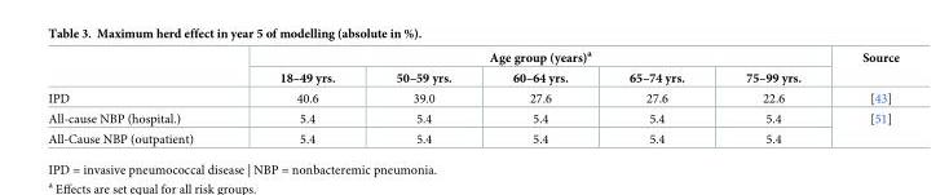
<table><thead><tr><td rowspan="2"></td><td colspan="5">Age group (years)<sup>a</sup></td><td rowspan="2">Source</td></tr><tr><td>18–49 yrs.</td><td>50–59 yrs.</td><td>60–64 yrs.</td><td>65–74 yrs.</td><td>75–99 yrs.</td></tr></thead><tbody><tr><td>IPD</td><td>40.6</td><td>39.0</td><td>27.6</td><td>27.6</td><td>22.6</td><td>[43]</td></tr><tr><td>All-cause NBP (hospital.)</td><td>5.4</td><td>5.4</td><td>5.4</td><td>5.4</td><td>5.4</td><td rowspan="2">[51]</td></tr><tr><td>All-Cause NBP (outpatient)</td><td>5.4</td><td>5.4</td><td>5.4</td><td>5.4</td><td>5.4</td></tr></tbody></table>